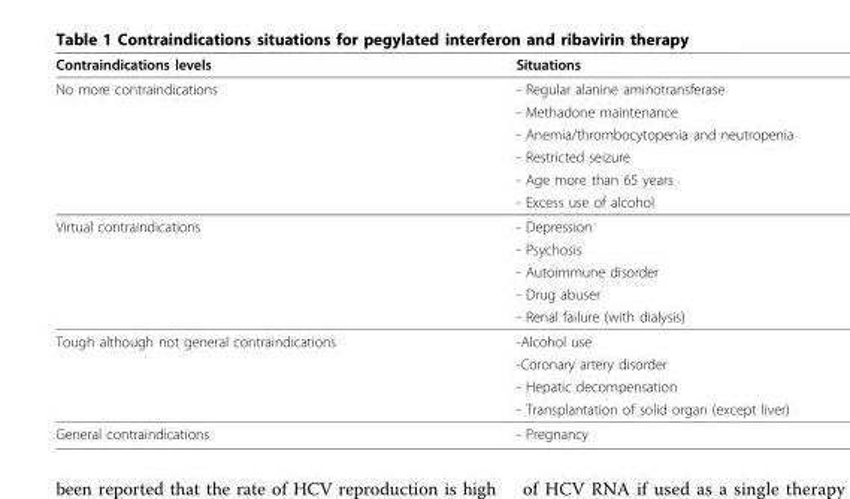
<table><thead><tr><td>Contraindications levels</td><td>Situations</td></tr></thead><tbody><tr><td rowspan="6">No more contraindications</td><td>- Regular alanine aminotransferase</td></tr><tr><td>- Methadone maintenance</td></tr><tr><td>- Anemia/thrombocytopenia and neutropenia</td></tr><tr><td>- Restricted seizure</td></tr><tr><td>- Age more than 65 years</td></tr><tr><td>- Excess use of alcohol</td></tr><tr><td rowspan="5">Virtual contraindications</td><td>- Depression</td></tr><tr><td>- Psychosis</td></tr><tr><td>- Autoimmune disorder</td></tr><tr><td>- Drug abuser</td></tr><tr><td>- Renal failure (with dialysis)</td></tr><tr><td rowspan="4">Tough although not general contraindications</td><td>-Alcohol use</td></tr><tr><td>-Coronary artery disorder</td></tr><tr><td>- Hepatic decompensation</td></tr><tr><td>- Transplantation of solid organ (except liver)</td></tr><tr><td>General contraindications</td><td>- Pregnancy</td></tr></tbody></table>